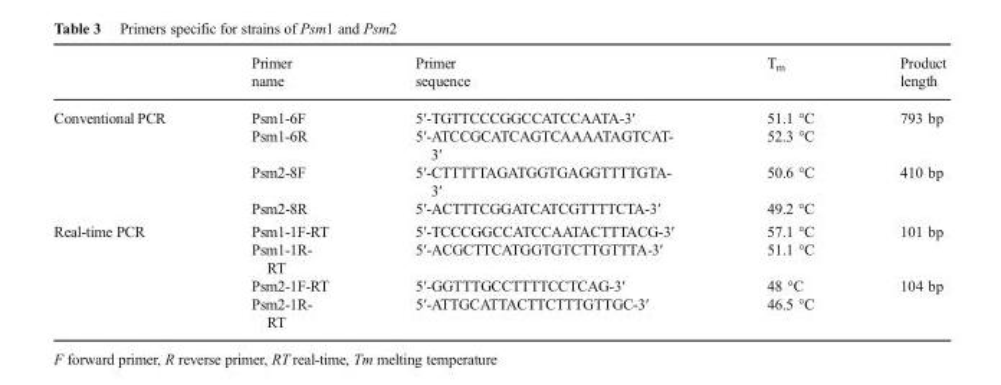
<table><thead><tr><td></td><td>Primer name</td><td>Primer sequence</td><td>T<sub>m</sub></td><td>Product length</td></tr></thead><tbody><tr><td rowspan="4">Conventional PCR</td><td>Psm1-6F</td><td>5′-TGTTCCCGGCCATCCAATA-3′</td><td>51.1 °C</td><td rowspan="2">793 bp</td></tr><tr><td>Psm1-6R</td><td>5′-ATCCGCATCAGTCAAAATAGTCAT- 3′</td><td>52.3 °C</td></tr><tr><td>Psm2-8F</td><td>5′-CTTTTTAGATGGTGAGGTTTTGTA- 3′</td><td>50.6 °C</td><td rowspan="2">410 bp</td></tr><tr><td>Psm2-8R</td><td>5′-ACTTTCGGATCATCGTTTTCTA-3′</td><td>49.2 °C</td></tr><tr><td rowspan="4">Real-time PCR</td><td>Psm1-1F-RT</td><td>5′-TCCCGGCCATCCAATACTTTACG-3′</td><td>57.1 °C</td><td rowspan="2">101 bp</td></tr><tr><td>Psm1-1R- RT</td><td>5′-ACGCTTCATGGTGTCTTGTTTA-3′</td><td>51.1 °C</td></tr><tr><td>Psm2-1F-RT</td><td>5′-GGTTTGCCTTTTCCTCAG-3′</td><td>48 °C</td><td rowspan="2">104 bp</td></tr><tr><td>Psm2-1R- RT</td><td>5′-ATTGCATTACTTCTTTGTTGC-3′</td><td>46.5 °C</td></tr></tbody></table>